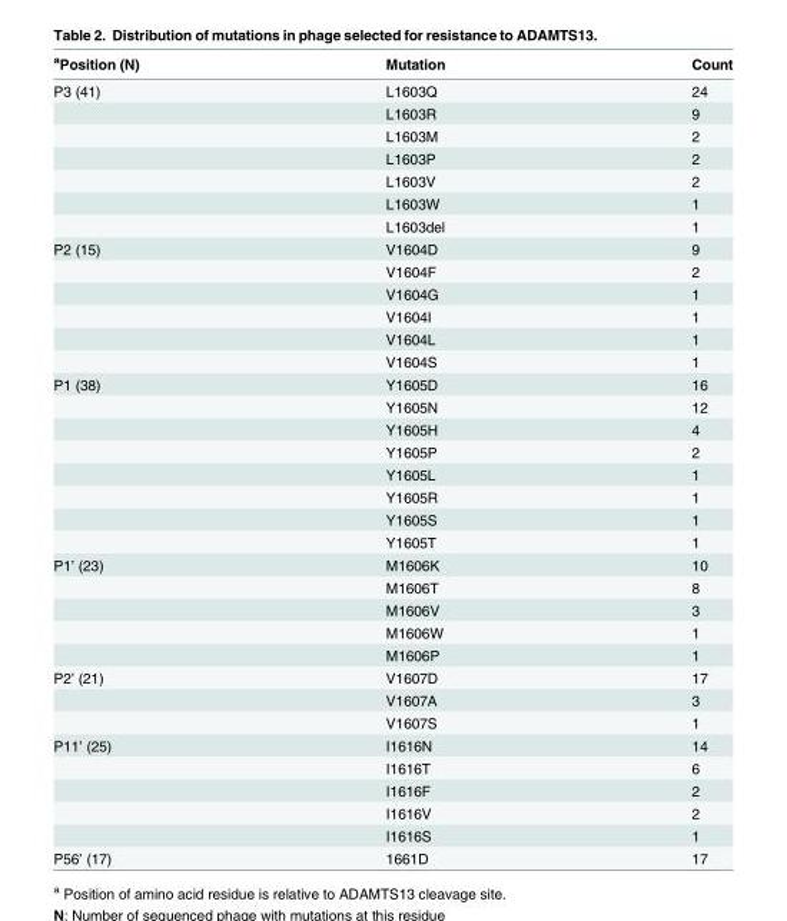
<table><thead><tr><td><sup>a</sup>Position (N)</td><td>Mutation</td><td>Count</td></tr></thead><tbody><tr><td rowspan="7">P3 (41)</td><td>L1603Q</td><td>24</td></tr><tr><td>L1603R</td><td>9</td></tr><tr><td>L1603M</td><td>2</td></tr><tr><td>L1603P</td><td>2</td></tr><tr><td>L1603V</td><td>2</td></tr><tr><td>L1603W</td><td>1</td></tr><tr><td>L1603del</td><td>1</td></tr><tr><td rowspan="6">P2 (15)</td><td>V1604D</td><td>9</td></tr><tr><td>V1604F</td><td>2</td></tr><tr><td>V1604G</td><td>1</td></tr><tr><td>V1604I</td><td>1</td></tr><tr><td>V1604L</td><td>1</td></tr><tr><td>V1604S</td><td>1</td></tr><tr><td rowspan="8">P1 (38)</td><td>Y1605D</td><td>16</td></tr><tr><td>Y1605N</td><td>12</td></tr><tr><td>Y1605H</td><td>4</td></tr><tr><td>Y1605P</td><td>2</td></tr><tr><td>Y1605L</td><td>1</td></tr><tr><td>Y1605R</td><td>1</td></tr><tr><td>Y1605S</td><td>1</td></tr><tr><td>Y1605T</td><td>1</td></tr><tr><td rowspan="5">P1’ (23)</td><td>M1606K</td><td>10</td></tr><tr><td>M1606T</td><td>8</td></tr><tr><td>M1606V</td><td>3</td></tr><tr><td>M1606W</td><td>1</td></tr><tr><td>M1606P</td><td>1</td></tr><tr><td rowspan="3">P2’ (21)</td><td>V1607D</td><td>17</td></tr><tr><td>V1607A</td><td>3</td></tr><tr><td>V1607S</td><td>1</td></tr><tr><td rowspan="5">P11’ (25)</td><td>I1616N</td><td>14</td></tr><tr><td>I1616T</td><td>6</td></tr><tr><td>I1616F</td><td>2</td></tr><tr><td>I1616V</td><td>2</td></tr><tr><td>I1616S</td><td>1</td></tr><tr><td>P56’ (17)</td><td>1661D</td><td>17</td></tr></tbody></table>